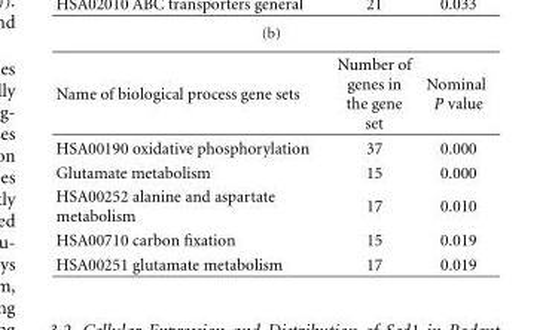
<table><thead><tr><td>Name of biological process gene sets</td><td>Number of genes in the gene set</td><td>Nominal P value</td></tr></thead><tbody><tr><td>HSA00190 oxidative phosphorylation</td><td>37</td><td>0.000</td></tr><tr><td>Glutamate metabolism</td><td>15</td><td>0.000</td></tr><tr><td>HSA00252 alanine and aspartate metabolism</td><td>17</td><td>0.010</td></tr><tr><td>HSA00710 carbon fixation</td><td>15</td><td>0.019</td></tr><tr><td>HSA00251 glutamate metabolism</td><td>17</td><td>0.019</td></tr></tbody></table>